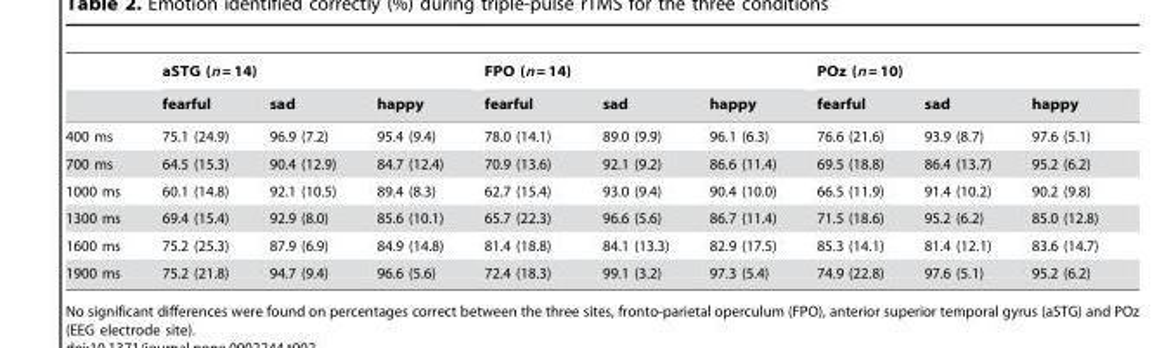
<table><thead><tr><td rowspan="2"></td><td colspan="3">aSTG (n = 14)</td><td colspan="3">FPO (n = 14)</td><td colspan="3">POz (n = 10)</td></tr><tr><td>fearful</td><td>sad</td><td>happy</td><td>fearful</td><td>sad</td><td>happy</td><td>fearful</td><td>sad</td><td>happy</td></tr></thead><tbody><tr><td>400 ms</td><td>75.1 (24.9)</td><td>96.9 (7.2)</td><td>95.4 (9.4)</td><td>78.0 (14.1)</td><td>89.0 (9.9)</td><td>96.1 (6.3)</td><td>76.6 (21.6)</td><td>93.9 (8.7)</td><td>97.6 (5.1)</td></tr><tr><td>700 ms</td><td>64.5 (15.3)</td><td>90.4 (12.9)</td><td>84.7 (12.4)</td><td>70.9 (13.6)</td><td>92.1 (9.2)</td><td>86.6 (11.4)</td><td>69.5 (18.8)</td><td>86.4 (13.7)</td><td>95.2 (6.2)</td></tr><tr><td>1000 ms</td><td>60.1 (14.8)</td><td>92.1 (10.5)</td><td>89.4 (8.3)</td><td>62.7 (15.4)</td><td>93.0 (9.4)</td><td>90.4 (10.0)</td><td>66.5 (11.9)</td><td>91.4 (10.2)</td><td>90.2 (9.8)</td></tr><tr><td>1300 ms</td><td>69.4 (15.4)</td><td>92.9 (8.0)</td><td>85.6 (10.1)</td><td>65.7 (22.3)</td><td>96.6 (5.6)</td><td>86.7 (11.4)</td><td>71.5 (18.6)</td><td>95.2 (6.2)</td><td>85.0 (12.8)</td></tr><tr><td>1600 ms</td><td>75.2 (25.3)</td><td>87.9 (6.9)</td><td>84.9 (14.8)</td><td>81.4 (18.8)</td><td>84.1 (13.3)</td><td>82.9 (17.5)</td><td>85.3 (14.1)</td><td>81.4 (12.1)</td><td>83.6 (14.7)</td></tr><tr><td>1900 ms</td><td>75.2 (21.8)</td><td>94.7 (9.4)</td><td>96.6 (5.6)</td><td>72.4 (18.3)</td><td>99.1 (3.2)</td><td>97.3 (5.4)</td><td>74.9 (22.8)</td><td>97.6 (5.1)</td><td>95.2 (6.2)</td></tr></tbody></table>